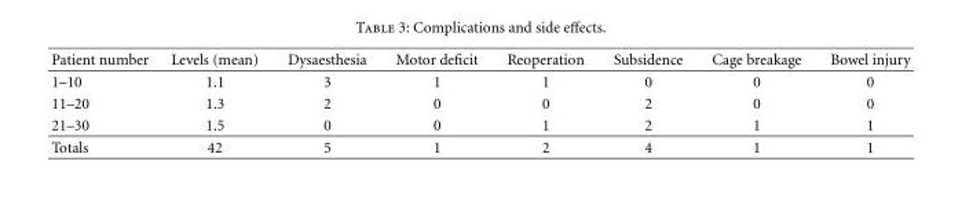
<table><thead><tr><td>Patient number</td><td>Levels (mean)</td><td>Dysaesthesia</td><td>Motor deficit</td><td>Reoperation</td><td>Subsidence</td><td>Cage breakage</td><td>Bowel injury</td></tr></thead><tbody><tr><td>1–10</td><td>1.1</td><td>3</td><td>1</td><td>1</td><td>0</td><td>0</td><td>0</td></tr><tr><td>11–20</td><td>1.3</td><td>2</td><td>0</td><td>0</td><td>2</td><td>0</td><td>0</td></tr><tr><td>21–30</td><td>1.5</td><td>0</td><td>0</td><td>1</td><td>2</td><td>1</td><td>1</td></tr><tr><td>Totals</td><td>42</td><td>5</td><td>1</td><td>2</td><td>4</td><td>1</td><td>1</td></tr></tbody></table>